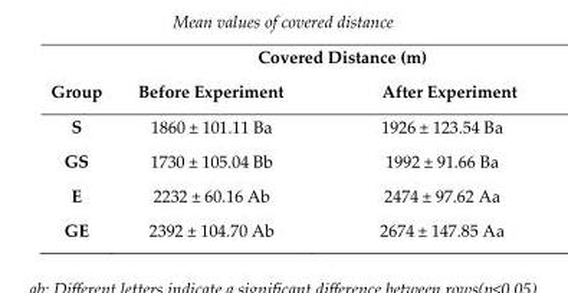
<table><thead><tr><td rowspan="2">Group</td><td colspan="2">Covered Distance (m)</td></tr><tr><td>Before Experiment</td><td>After Experiment</td></tr></thead><tbody><tr><td>S</td><td>1860 ± 101.11 Ba</td><td>1926 ± 123.54 Ba</td></tr><tr><td>GS</td><td>1730 ± 105.04 Bb</td><td>1992 ± 91.66 Ba</td></tr><tr><td>E</td><td>2232 ± 60.16 Ab</td><td>2474 ± 97.62 Aa</td></tr><tr><td>GE</td><td>2392 ± 104.70 Ab</td><td>2674 ± 147.85 Aa</td></tr></tbody></table>